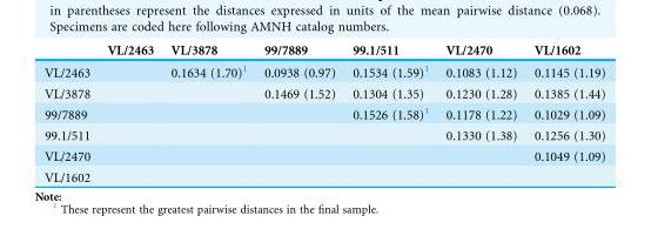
<table><thead><tr><td></td><td>VL/2463</td><td>VL/3878</td><td>99/7889</td><td>99.1/511</td><td>VL/2470</td><td>VL/1602</td></tr></thead><tbody><tr><td>VL/2463</td><td></td><td>0.1634 (1.70)<sup>1</sup></td><td>0.0938 (0.97)</td><td>0.1534 (1.59)<sup>1</sup></td><td>0.1083 (1.12)</td><td>0.1145 (1.19)</td></tr><tr><td>VL/3878</td><td></td><td></td><td>0.1469 (1.52)</td><td>0.1304 (1.35)</td><td>0.1230 (1.28)</td><td>0.1385 (1.44)</td></tr><tr><td>99/7889</td><td></td><td></td><td></td><td>0.1526 (1.58)<sup>1</sup></td><td>0.1178 (1.22)</td><td>0.1029 (1.09)</td></tr><tr><td>99.1/511</td><td></td><td></td><td></td><td></td><td>0.1330 (1.38)</td><td>0.1256 (1.30)</td></tr><tr><td>VL/2470</td><td></td><td></td><td></td><td></td><td></td><td>0.1049 (1.09)</td></tr><tr><td>VL/1602</td><td></td><td></td><td></td><td></td><td></td><td></td></tr></tbody></table>